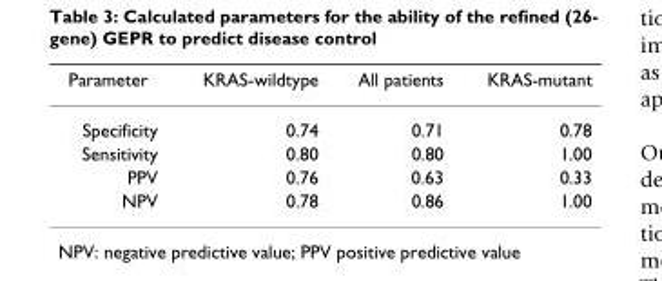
<table><thead><tr><td>Parameter</td><td>KRAS-wildtype</td><td>All patients</td><td>KRAS-mutant</td></tr></thead><tbody><tr><td>Specificity</td><td>0.74</td><td>0.71</td><td>0.78</td></tr><tr><td>Sensitivity</td><td>0.80</td><td>0.80</td><td>1.00</td></tr><tr><td>PPV</td><td>0.76</td><td>0.63</td><td>0.33</td></tr><tr><td>NPV</td><td>0.78</td><td>0.86</td><td>1.00</td></tr></tbody></table>